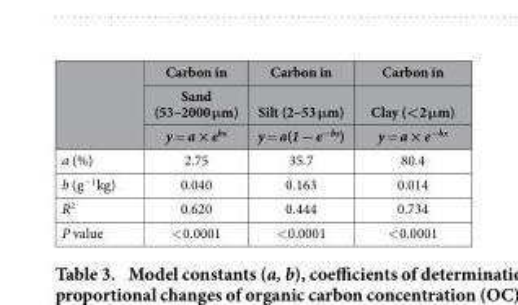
<table><thead><tr><td rowspan="3"></td><td rowspan="3">Carbon in Sand (53–2000 μm) y = a × e<sup>bx</sup></td><td rowspan="3">Carbon in Silt (2–53 μm) y = a(1 − e<sup>−bx</sup>)</td><td rowspan="3">Carbon in Clay (&lt;2 μm) y = a × e<sup>−bx</sup></td></tr><tr></tr><tr></tr></thead><tbody><tr><td>a (%)</td><td>2.75</td><td>35.7</td><td>80.4</td></tr><tr><td>b (g<sup>−1</sup> kg)</td><td>0.040</td><td>0.163</td><td>0.014</td></tr><tr><td>R<sup>2</sup></td><td>0.620</td><td>0.444</td><td>0.734</td></tr><tr><td>P value</td><td>&lt; 0.0001</td><td>&lt; 0.0001</td><td>&lt; 0.0001</td></tr></tbody></table>